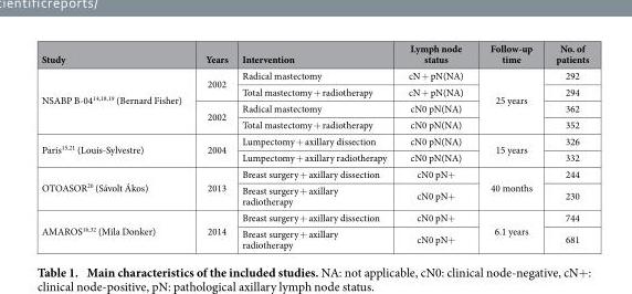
<table><thead><tr><td>Study</td><td>Years</td><td>Intervention</td><td>Lymph node status</td><td>Follow-up time</td><td>No. of patients</td></tr></thead><tbody><tr><td rowspan="4">NSABP B-04<sup>14</sup>,<sup>18</sup>,<sup>19</sup> (Bernard Fisher)</td><td rowspan="2">2002</td><td>Radical mastectomy</td><td>cN + pN(NA)</td><td rowspan="4">25 years</td><td>292</td></tr><tr><td>Total mastectomy + radiotherapy</td><td>cN + pN(NA)</td><td>294</td></tr><tr><td rowspan="2">2002</td><td>Radical mastectomy</td><td>cN0 pN(NA)</td><td>362</td></tr><tr><td>Total mastectomy + radiotherapy</td><td>cN0 pN(NA)</td><td>352</td></tr><tr><td rowspan="2">Paris<sup>15</sup>,<sup>21</sup> (Louis-Sylvestre)</td><td rowspan="2">2004</td><td>Lumpectomy + axillary dissection</td><td>cN0 pN(NA)</td><td rowspan="2">15 years</td><td>326</td></tr><tr><td>Lumpectomy + axillary radiotherapy</td><td>cN0 pN(NA)</td><td>332</td></tr><tr><td rowspan="2">OTOASOR<sup>20</sup> (Sávolt Ákos)</td><td rowspan="2">2013</td><td>Breast surgery + axillary dissection</td><td>cN0 pN+</td><td rowspan="2">40 months</td><td>244</td></tr><tr><td>Breast surgery + axillary radiotherapy</td><td>cN0 pN+</td><td>230</td></tr><tr><td rowspan="2">AMAROS<sup>16</sup>,<sup>32</sup> (Mila Donker)</td><td rowspan="2">2014</td><td>Breast surgery + axillary dissection</td><td>cN0 pN+</td><td rowspan="2">6.1 years</td><td>744</td></tr><tr><td>Breast surgery + axillary radiotherapy</td><td>cN0 pN+</td><td>681</td></tr></tbody></table>